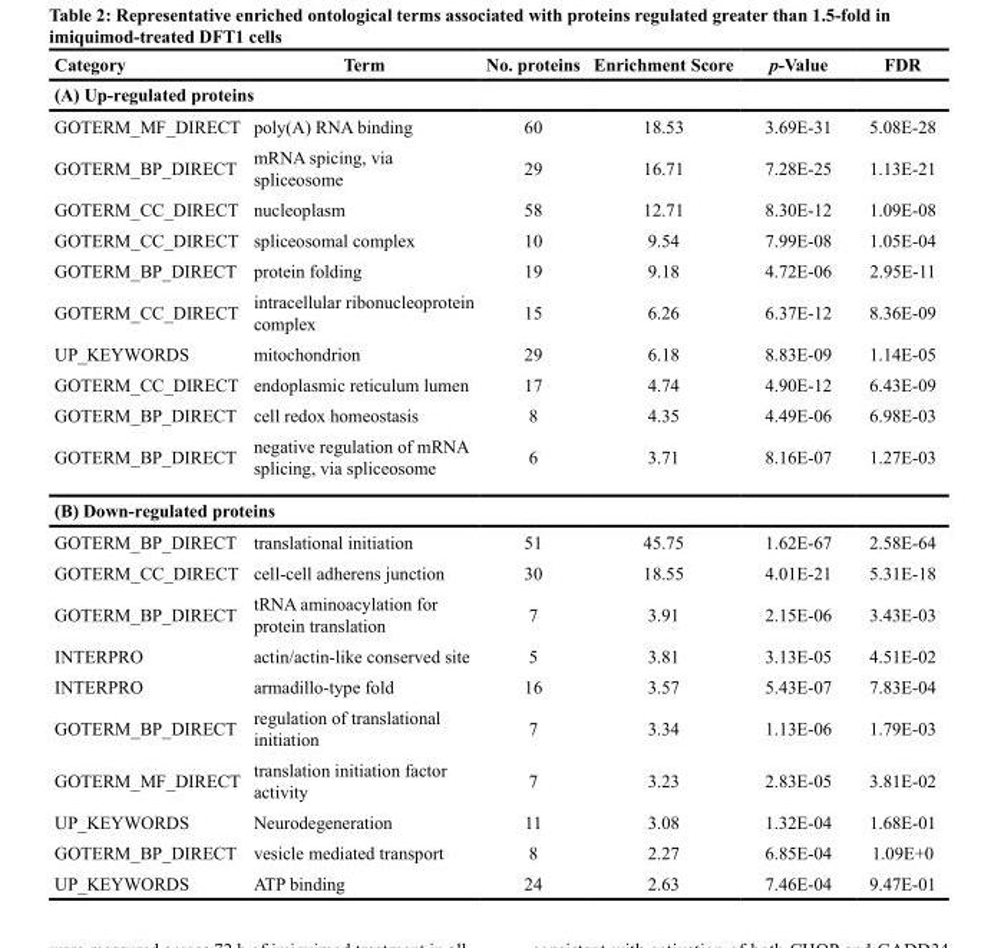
<table><thead><tr><td>Category</td><td>Term</td><td>No. proteins</td><td>Enrichment Score</td><td>p-Value</td><td>FDR</td></tr><tr><td colspan="6">(A) Up-regulated proteins</td></tr></thead><tbody><tr><td>GOTERM_MF_DIRECT</td><td>poly(A) RNA binding</td><td>60</td><td>18.53</td><td>3.69E-31</td><td>5.08E-28</td></tr><tr><td>GOTERM_BP_DIRECT</td><td>mRNA spicing, via spliceosome</td><td>29</td><td>16.71</td><td>7.28E-25</td><td>1.13E-21</td></tr><tr><td>GOTERM_CC_DIRECT</td><td>nucleoplasm</td><td>58</td><td>12.71</td><td>8.30E-12</td><td>1.09E-08</td></tr><tr><td>GOTERM_CC_DIRECT</td><td>spliceosomal complex</td><td>10</td><td>9.54</td><td>7.99E-08</td><td>1.05E-04</td></tr><tr><td>GOTERM_BP_DIRECT</td><td>protein folding</td><td>19</td><td>9.18</td><td>4.72E-06</td><td>2.95E-11</td></tr><tr><td>GOTERM_CC_DIRECT</td><td>intracellular ribonucleoprotein complex</td><td>15</td><td>6.26</td><td>6.37E-12</td><td>8.36E-09</td></tr><tr><td>UP_KEYWORDS</td><td>mitochondrion</td><td>29</td><td>6.18</td><td>8.83E-09</td><td>1.14E-05</td></tr><tr><td>GOTERM_CC_DIRECT</td><td>endoplasmic reticulum lumen</td><td>17</td><td>4.74</td><td>4.90E-12</td><td>6.43E-09</td></tr><tr><td>GOTERM_BP_DIRECT</td><td>cell redox homeostasis</td><td>8</td><td>4.35</td><td>4.49E-06</td><td>6.98E-03</td></tr><tr><td>GOTERM_BP_DIRECT</td><td>negative regulation of mRNA splicing, via spliceosome</td><td>6</td><td>3.71</td><td>8.16E-07</td><td>1.27E-03</td></tr><tr><td colspan="6">(B) Down-regulated proteins</td></tr><tr><td>GOTERM_BP_DIRECT</td><td>translational initiation</td><td>51</td><td>45.75</td><td>1.62E-67</td><td>2.58E-64</td></tr><tr><td>GOTERM_CC_DIRECT</td><td>cell-cell adherens junction</td><td>30</td><td>18.55</td><td>4.01E-21</td><td>5.31E-18</td></tr><tr><td>GOTERM_BP_DIRECT</td><td>tRNA aminoacylation for protein translation</td><td>7</td><td>3.91</td><td>2.15E-06</td><td>3.43E-03</td></tr><tr><td>INTERPRO</td><td>actin/actin-like conserved site</td><td>5</td><td>3.81</td><td>3.13E-05</td><td>4.51E-02</td></tr><tr><td>INTERPRO</td><td>armadillo-type fold</td><td>16</td><td>3.57</td><td>5.43E-07</td><td>7.83E-04</td></tr><tr><td>GOTERM_BP_DIRECT</td><td>regulation of translational initiation</td><td>7</td><td>3.34</td><td>1.13E-06</td><td>1.79E-03</td></tr><tr><td>GOTERM_MF_DIRECT</td><td>translation initiation factor activity</td><td>7</td><td>3.23</td><td>2.83E-05</td><td>3.81E-02</td></tr><tr><td>UP_KEYWORDS</td><td>Neurodegeneration</td><td>11</td><td>3.08</td><td>1.32E-04</td><td>1.68E-01</td></tr><tr><td>GOTERM_BP_DIRECT</td><td>vesicle mediated transport</td><td>8</td><td>2.27</td><td>6.85E-04</td><td>1.09E+0</td></tr><tr><td>UP_KEYWORDS</td><td>ATP binding</td><td>24</td><td>2.63</td><td>7.46E-04</td><td>9.47E-01</td></tr></tbody></table>